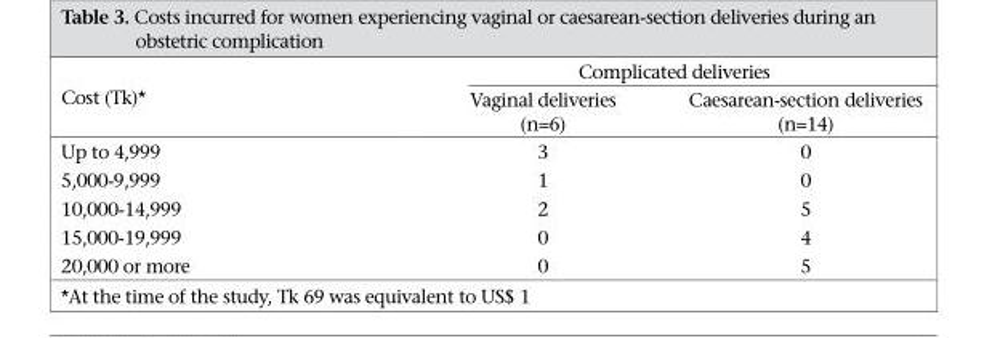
<table><thead><tr><td rowspan="2">Cost (Tk)*</td><td colspan="2">Complicated deliveries</td></tr><tr><td>Vaginal deliveries (n=6)</td><td>Caesarean-section deliveries (n=14)</td></tr></thead><tbody><tr><td>Up to 4,999</td><td>3</td><td>0</td></tr><tr><td>5,000-9,999</td><td>1</td><td>0</td></tr><tr><td>10,000-14,999</td><td>2</td><td>5</td></tr><tr><td>15,000-19,999</td><td>0</td><td>4</td></tr><tr><td>20,000 or more</td><td>0</td><td>5</td></tr></tbody></table>